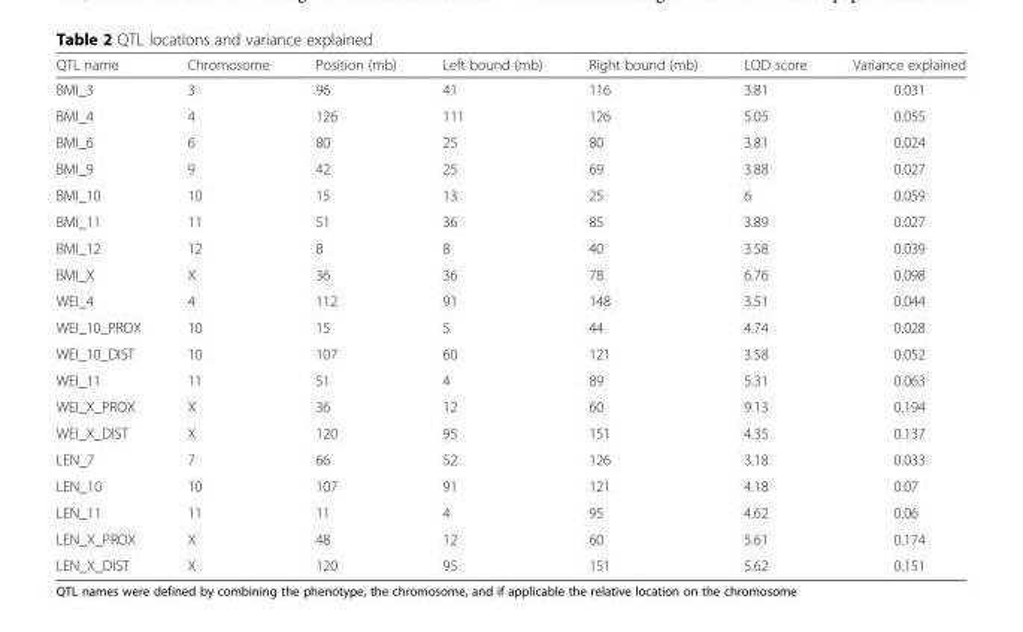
<table><thead><tr><td>QTL name</td><td>Chromosome</td><td>Position (mb)</td><td>Left bound (mb)</td><td>Right bound (mb)</td><td>LOD score</td><td>Variance explained</td></tr></thead><tbody><tr><td>BMI_3</td><td>3</td><td>96</td><td>41</td><td>116</td><td>3.81</td><td>0.031</td></tr><tr><td>BMI_4</td><td>4</td><td>126</td><td>111</td><td>126</td><td>5.05</td><td>0.055</td></tr><tr><td>BMI_6</td><td>6</td><td>80</td><td>25</td><td>80</td><td>3.81</td><td>0.024</td></tr><tr><td>BMI_9</td><td>9</td><td>42</td><td>25</td><td>69</td><td>3.88</td><td>0.027</td></tr><tr><td>BMI_10</td><td>10</td><td>15</td><td>13</td><td>25</td><td>6</td><td>0.059</td></tr><tr><td>BMI_11</td><td>11</td><td>51</td><td>36</td><td>85</td><td>3.89</td><td>0.027</td></tr><tr><td>BMI_12</td><td>12</td><td>8</td><td>8</td><td>40</td><td>3.58</td><td>0.039</td></tr><tr><td>BMI_X</td><td>X</td><td>36</td><td>36</td><td>78</td><td>6.76</td><td>0.098</td></tr><tr><td>WEI_4</td><td>4</td><td>112</td><td>91</td><td>148</td><td>3.51</td><td>0.044</td></tr><tr><td>WEI_10_PROX</td><td>10</td><td>15</td><td>5</td><td>44</td><td>4.74</td><td>0.028</td></tr><tr><td>WEI_10_DIST</td><td>10</td><td>107</td><td>60</td><td>121</td><td>3.58</td><td>0.052</td></tr><tr><td>WEI_11</td><td>11</td><td>51</td><td>4</td><td>89</td><td>5.31</td><td>0.063</td></tr><tr><td>WEI_X_PROX</td><td>X</td><td>36</td><td>12</td><td>60</td><td>9.13</td><td>0.194</td></tr><tr><td>WEI_X_DIST</td><td>X</td><td>120</td><td>95</td><td>151</td><td>4.35</td><td>0.137</td></tr><tr><td>LEN_7</td><td>7</td><td>66</td><td>52</td><td>126</td><td>3.18</td><td>0.033</td></tr><tr><td>LEN_10</td><td>10</td><td>107</td><td>91</td><td>121</td><td>4.18</td><td>0.07</td></tr><tr><td>LEN_11</td><td>11</td><td>11</td><td>4</td><td>95</td><td>4.62</td><td>0.06</td></tr><tr><td>LEN_X_PROX</td><td>X</td><td>48</td><td>12</td><td>60</td><td>5.61</td><td>0.174</td></tr><tr><td>LEN_X_DIST</td><td>X</td><td>120</td><td>95</td><td>151</td><td>5.62</td><td>0.151</td></tr></tbody></table>